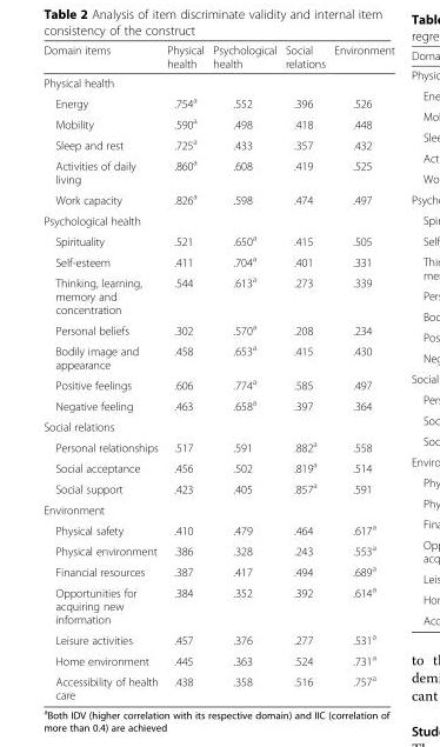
<table><thead><tr><td>Domain items</td><td>Physical health</td><td>Psychological health</td><td>Social relations</td><td>Environment</td></tr></thead><tbody><tr><td colspan="5">Physical health</td></tr><tr><td>Energy</td><td>.754<sup>a</sup></td><td>.552</td><td>.396</td><td>.526</td></tr><tr><td>Mobility</td><td>.590<sup>a</sup></td><td>.498</td><td>.418</td><td>.448</td></tr><tr><td>Sleep and rest</td><td>.725<sup>a</sup></td><td>.433</td><td>.357</td><td>.432</td></tr><tr><td>Activities of daily living</td><td>.860<sup>a</sup></td><td>.608</td><td>.419</td><td>.525</td></tr><tr><td>Work capacity</td><td>.826<sup>a</sup></td><td>.598</td><td>.474</td><td>.497</td></tr><tr><td colspan="5">Psychological health</td></tr><tr><td>Spirituality</td><td>.521</td><td>.650<sup>a</sup></td><td>.415</td><td>.505</td></tr><tr><td>Self-esteem</td><td>.411</td><td>.704<sup>a</sup></td><td>.401</td><td>.331</td></tr><tr><td>Thinking, learning, memory and concentration</td><td>.544</td><td>.613<sup>a</sup></td><td>.273</td><td>.339</td></tr><tr><td>Personal beliefs</td><td>.302</td><td>.570<sup>a</sup></td><td>.208</td><td>.234</td></tr><tr><td>Bodily image and appearance</td><td>.458</td><td>.653<sup>a</sup></td><td>.415</td><td>.430</td></tr><tr><td>Positive feelings</td><td>.606</td><td>.774<sup>a</sup></td><td>.585</td><td>.497</td></tr><tr><td>Negative feeling</td><td>.463</td><td>.658<sup>a</sup></td><td>.397</td><td>.364</td></tr><tr><td colspan="5">Social relations</td></tr><tr><td>Personal relationships</td><td>.517</td><td>.591</td><td>.882<sup>a</sup></td><td>.558</td></tr><tr><td>Social acceptance</td><td>.456</td><td>.502</td><td>.819<sup>a</sup></td><td>.514</td></tr><tr><td>Social support</td><td>.423</td><td>.405</td><td>.857<sup>a</sup></td><td>.591</td></tr><tr><td colspan="5">Environment</td></tr><tr><td>Physical safety</td><td>.410</td><td>.479</td><td>.464</td><td>.617<sup>a</sup></td></tr><tr><td>Physical environment</td><td>.386</td><td>.328</td><td>.243</td><td>.553<sup>a</sup></td></tr><tr><td>Financial resources</td><td>.387</td><td>.417</td><td>.494</td><td>.689<sup>a</sup></td></tr><tr><td>Opportunities for acquiring new information</td><td>.384</td><td>.352</td><td>.392</td><td>.614<sup>a</sup></td></tr><tr><td>Leisure activities</td><td>.457</td><td>.376</td><td>.277</td><td>.531<sup>a</sup></td></tr><tr><td>Home environment</td><td>.445</td><td>.363</td><td>.524</td><td>.731<sup>a</sup></td></tr><tr><td>Accessibility of health care</td><td>.438</td><td>.358</td><td>.516</td><td>.757<sup>a</sup></td></tr></tbody></table>